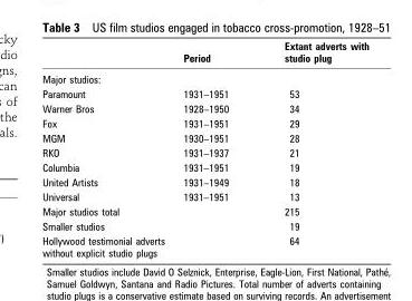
<table><thead><tr><td></td><td>Period</td><td>Extant adverts with studio plug</td></tr></thead><tbody><tr><td colspan="3">Major studios:</td></tr><tr><td>Paramount</td><td>1931–1951</td><td>53</td></tr><tr><td>Warner Bros</td><td>1928–1950</td><td>34</td></tr><tr><td>Fox</td><td>1931–1951</td><td>29</td></tr><tr><td>MGM</td><td>1930–1951</td><td>28</td></tr><tr><td>RKO</td><td>1931–1937</td><td>21</td></tr><tr><td>Columbia</td><td>1931–1951</td><td>19</td></tr><tr><td>United Artists</td><td>1931–1949</td><td>18</td></tr><tr><td>Universal</td><td>1931–1951</td><td>13</td></tr><tr><td>Major studios total</td><td></td><td>215</td></tr><tr><td>Smaller studios</td><td></td><td>19</td></tr><tr><td>Hollywood testimonial adverts without explicit studio plugs</td><td></td><td>64</td></tr></tbody></table>